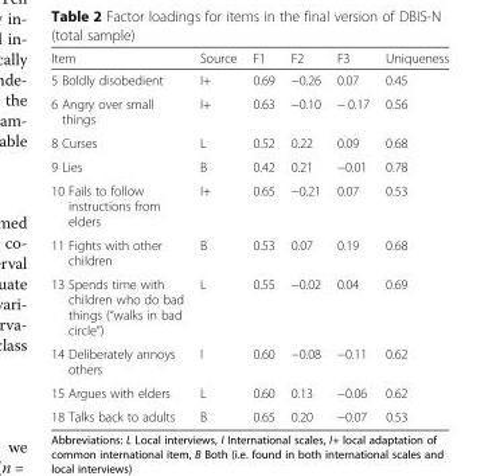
<table><thead><tr><td>Item</td><td>Source</td><td>F1</td><td>F2</td><td>F3</td><td>Uniqueness</td></tr></thead><tbody><tr><td>5 Boldly disobedient</td><td>I+</td><td>0.69</td><td>−0.26</td><td>0.07</td><td>0.45</td></tr><tr><td>6 Angry over small things</td><td>I+</td><td>0.63</td><td>−0.10</td><td>− 0.17</td><td>0.56</td></tr><tr><td>8 Curses</td><td>L</td><td>0.52</td><td>0.22</td><td>0.09</td><td>0.68</td></tr><tr><td>9 Lies</td><td>B</td><td>0.42</td><td>0.21</td><td>−0.01</td><td>0.78</td></tr><tr><td>10 Fails to follow instructions from elders</td><td>I+</td><td>0.65</td><td>−0.21</td><td>0.07</td><td>0.53</td></tr><tr><td>11 Fights with other children</td><td>B</td><td>0.53</td><td>0.07</td><td>0.19</td><td>0.68</td></tr><tr><td>13 Spends time with children who do bad things (“walks in bad circle”)</td><td>L</td><td>0.55</td><td>−0.02</td><td>0.04</td><td>0.69</td></tr><tr><td>14 Deliberately annoys others</td><td>I</td><td>0.60</td><td>−0.08</td><td>−0.11</td><td>0.62</td></tr><tr><td>15 Argues with elders</td><td>L</td><td>0.60</td><td>0.13</td><td>−0.06</td><td>0.62</td></tr><tr><td>18 Talks back to adults</td><td>B</td><td>0.65</td><td>0.20</td><td>−0.07</td><td>0.53</td></tr></tbody></table>